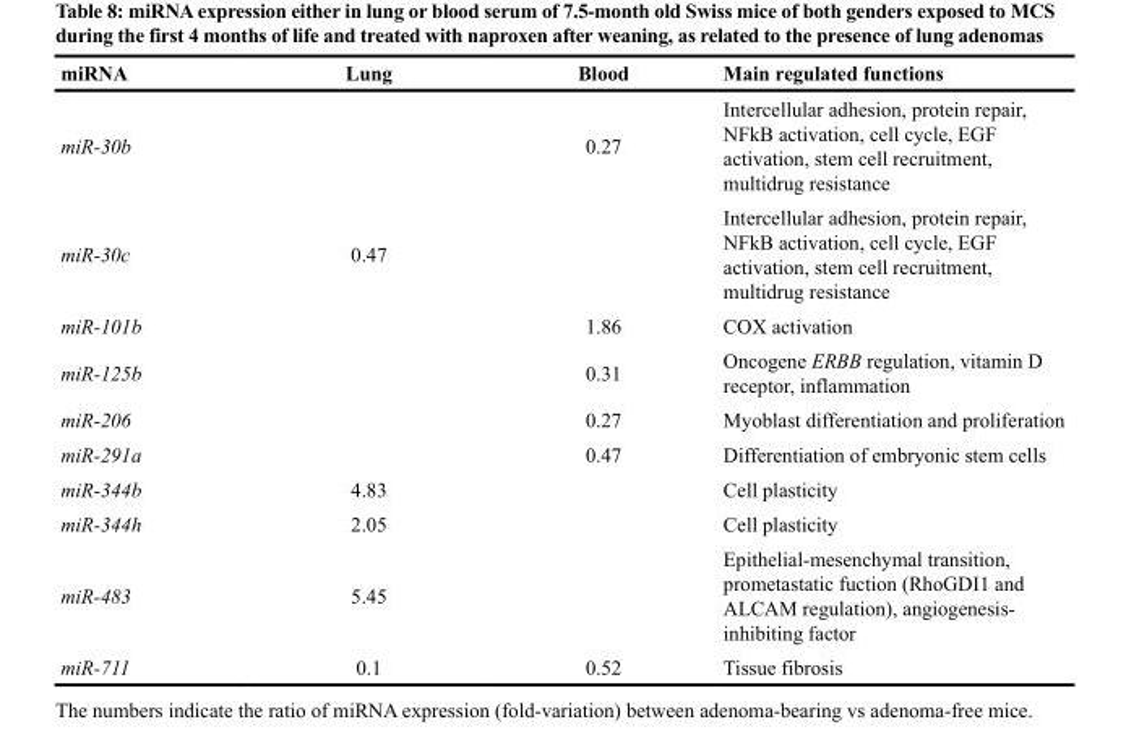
<table><thead><tr><td>miRNA</td><td>Lung</td><td>Blood</td><td>Main regulated functions</td></tr></thead><tbody><tr><td>miR-30b</td><td></td><td>0.27</td><td>Intercellular adhesion, protein repair, NFkB activation, cell cycle, EGF activation, stem cell recruitment, multidrug resistance</td></tr><tr><td>miR-30c</td><td>0.47</td><td></td><td>Intercellular adhesion, protein repair, NFkB activation, cell cycle, EGF activation, stem cell recruitment, multidrug resistance</td></tr><tr><td>miR-101b</td><td></td><td>1.86</td><td>COX activation</td></tr><tr><td>miR-125b</td><td></td><td>0.31</td><td>Oncogene ERBB regulation, vitamin D receptor, inflammation</td></tr><tr><td>miR-206</td><td></td><td>0.27</td><td>Myoblast differentiation and proliferation</td></tr><tr><td>miR-291a</td><td></td><td>0.47</td><td>Differentiation of embryonic stem cells</td></tr><tr><td>miR-344b</td><td>4.83</td><td></td><td>Cell plasticity</td></tr><tr><td>miR-344h</td><td>2.05</td><td></td><td>Cell plasticity</td></tr><tr><td>miR-483</td><td>5.45</td><td></td><td>Epithelial-mesenchymal transition, prometastatic fuction (RhoGDI1 and ALCAM regulation), angiogenesis- inhibiting factor</td></tr><tr><td>miR-711</td><td>0.1</td><td>0.52</td><td>Tissue fibrosis</td></tr></tbody></table>